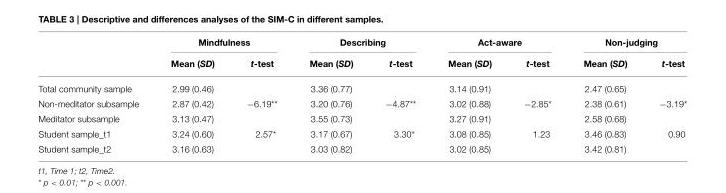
<table><thead><tr><td rowspan="2"></td><td colspan="2">Mindfulness</td><td colspan="2">Describing</td><td colspan="2">Act-aware</td><td colspan="2">Non-judging</td></tr><tr><td>Mean (SD)</td><td>t-test</td><td>Mean (SD)</td><td>t-test</td><td>Mean (SD)</td><td>t-test</td><td>Mean (SD)</td><td>t-test</td></tr></thead><tbody><tr><td>Total community sample</td><td>2.99 (0.46)</td><td></td><td>3.36 (0.77)</td><td></td><td>3.14 (0.91)</td><td></td><td>2.47 (0.65)</td><td></td></tr><tr><td>Non-meditator subsample</td><td>2.87 (0.42)</td><td>−6.19**</td><td>3.20 (0.76)</td><td>−4.87**</td><td>3.02 (0.88)</td><td>−2.85*</td><td>2.38 (0.61)</td><td>−3.19*</td></tr><tr><td>Meditator subsample</td><td>3.13 (0.47)</td><td></td><td>3.55 (0.73)</td><td></td><td>3.27 (0.91)</td><td></td><td>2.58 (0.68)</td><td></td></tr><tr><td>Student sample_t1</td><td>3.24 (0.60)</td><td>2.57*</td><td>3.17 (0.67)</td><td>3.30*</td><td>3.08 (0.85)</td><td>1.23</td><td>3.46 (0.83)</td><td>0.90</td></tr><tr><td>Student sample_t2</td><td>3.16 (0.63)</td><td></td><td>3.03 (0.82)</td><td></td><td>3.02 (0.85)</td><td></td><td>3.42 (0.81)</td><td></td></tr></tbody></table>